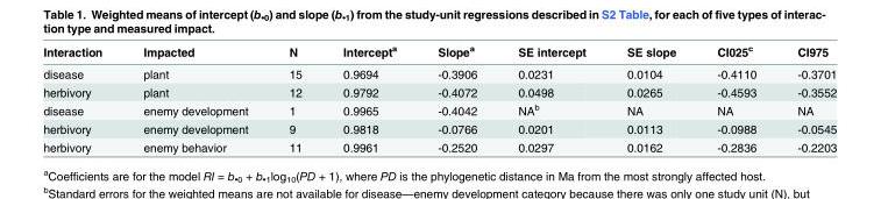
<table><thead><tr><td>Interaction</td><td>Impacted</td><td>N</td><td>Intercept<sup>a</sup></td><td>Slope<sup>a</sup></td><td>SE intercept</td><td>SE slope</td><td>CI025<sup>c</sup></td><td>CI975</td></tr></thead><tbody><tr><td>disease</td><td>plant</td><td>15</td><td>0.9694</td><td>-0.3906</td><td>0.0231</td><td>0.0104</td><td>-0.4110</td><td>-0.3701</td></tr><tr><td>herbivory</td><td>plant</td><td>12</td><td>0.9792</td><td>-0.4072</td><td>0.0498</td><td>0.0265</td><td>-0.4593</td><td>-0.3552</td></tr><tr><td>disease</td><td>enemy development</td><td>1</td><td>0.9965</td><td>-0.4042</td><td>NA<sup>b</sup></td><td>NA</td><td>NA</td><td>NA</td></tr><tr><td>herbivory</td><td>enemy development</td><td>9</td><td>0.9818</td><td>-0.0766</td><td>0.0201</td><td>0.0113</td><td>-0.0988</td><td>-0.0545</td></tr><tr><td>herbivory</td><td>enemy behavior</td><td>11</td><td>0.9961</td><td>-0.2520</td><td>0.0297</td><td>0.0162</td><td>-0.2836</td><td>-0.2203</td></tr></tbody></table>